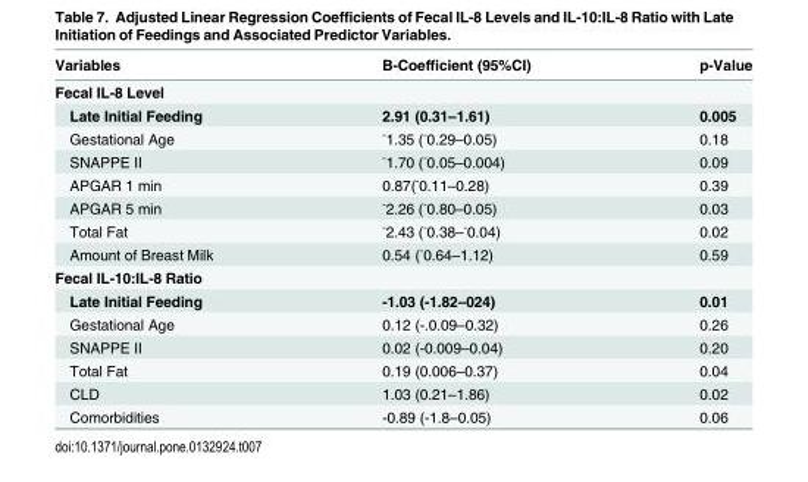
<table><thead><tr><td>Variables</td><td>B-Coefficient (95%CI)</td><td>p-Value</td></tr></thead><tbody><tr><td colspan="3">Fecal IL-8 Level</td></tr><tr><td>Late Initial Feeding</td><td>2.91 (0.31–1.61)</td><td>0.005</td></tr><tr><td>Gestational Age</td><td><sup>-</sup>1.35 (<sup>-</sup>0.29–0.05)</td><td>0.18</td></tr><tr><td>SNAPPE II</td><td><sup>-</sup>1.70 (<sup>-</sup>0.05–0.004)</td><td>0.09</td></tr><tr><td>APGAR 1 min</td><td>0.87(<sup>-</sup>0.11–0.28)</td><td>0.39</td></tr><tr><td>APGAR 5 min</td><td><sup>-</sup>2.26 (<sup>-</sup>0.80–0.05)</td><td>0.03</td></tr><tr><td>Total Fat</td><td><sup>-</sup>2.43 (<sup>-</sup>0.38–<sup>-</sup>0.04)</td><td>0.02</td></tr><tr><td>Amount of Breast Milk</td><td>0.54 (<sup>-</sup>0.64–1.12)</td><td>0.59</td></tr><tr><td colspan="3">Fecal IL-10:IL-8 Ratio</td></tr><tr><td>Late Initial Feeding</td><td>-1.03 (-1.82–024)</td><td>0.01</td></tr><tr><td>Gestational Age</td><td>0.12 (-.0.09–0.32)</td><td>0.26</td></tr><tr><td>SNAPPE II</td><td>0.02 (-0.009–0.04)</td><td>0.20</td></tr><tr><td>Total Fat</td><td>0.19 (0.006–0.37)</td><td>0.04</td></tr><tr><td>CLD</td><td>1.03 (0.21–1.86)</td><td>0.02</td></tr><tr><td>Comorbidities</td><td>-0.89 (-1.8–0.05)</td><td>0.06</td></tr></tbody></table>